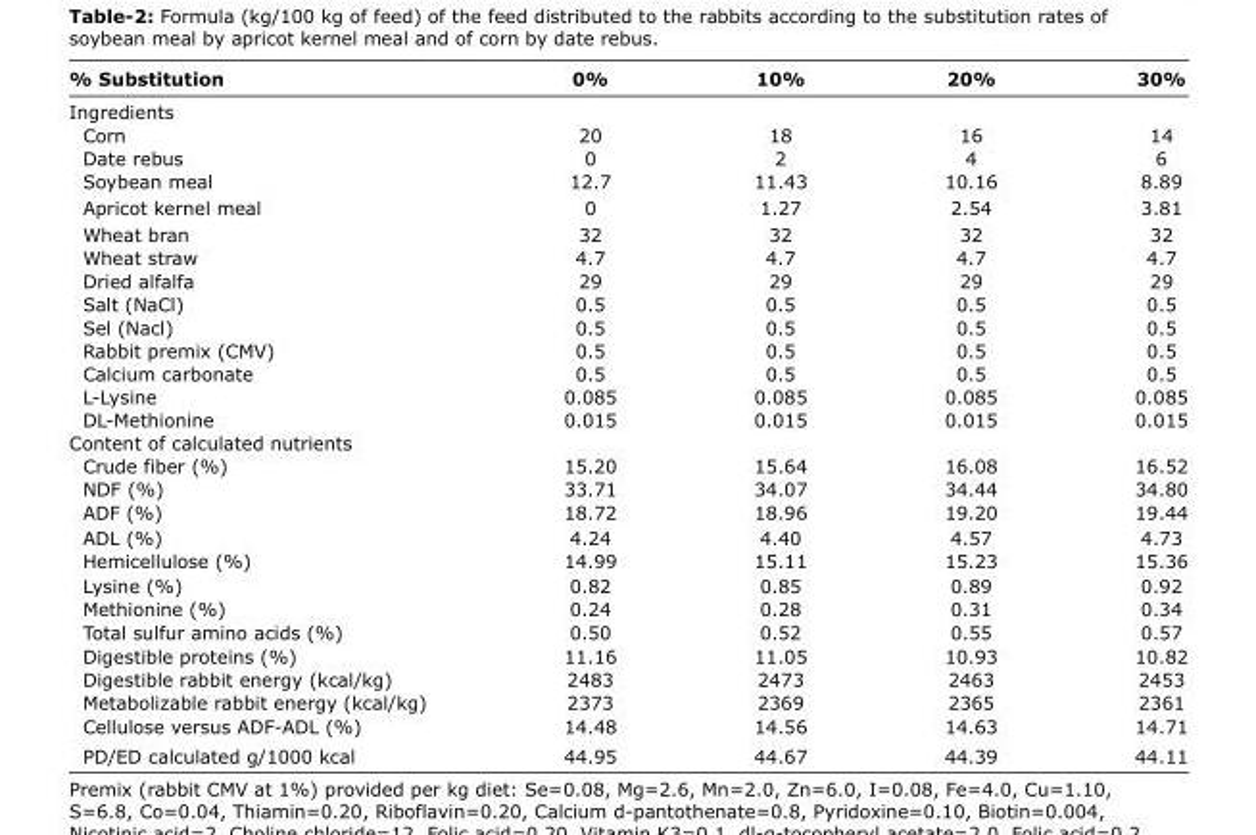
<table><thead><tr><td>% Substitution</td><td>0%</td><td>10%</td><td>20%</td><td>30%</td></tr></thead><tbody><tr><td colspan="5">Ingredients</td></tr><tr><td>Corn</td><td>20</td><td>18</td><td>16</td><td>14</td></tr><tr><td>Date rebus</td><td>0</td><td>2</td><td>4</td><td>6</td></tr><tr><td>Soybean meal</td><td>12.7</td><td>11.43</td><td>10.16</td><td>8.89</td></tr><tr><td>Apricot kernel meal</td><td>0</td><td>1.27</td><td>2.54</td><td>3.81</td></tr><tr><td>Wheat bran</td><td>32</td><td>32</td><td>32</td><td>32</td></tr><tr><td>Wheat straw</td><td>4.7</td><td>4.7</td><td>4.7</td><td>4.7</td></tr><tr><td>Dried alfalfa</td><td>29</td><td>29</td><td>29</td><td>29</td></tr><tr><td>Salt (NaCl)</td><td>0.5</td><td>0.5</td><td>0.5</td><td>0.5</td></tr><tr><td>Sel (Nacl)</td><td>0.5</td><td>0.5</td><td>0.5</td><td>0.5</td></tr><tr><td>Rabbit premix (CMV)</td><td>0.5</td><td>0.5</td><td>0.5</td><td>0.5</td></tr><tr><td>Calcium carbonate</td><td>0.5</td><td>0.5</td><td>0.5</td><td>0.5</td></tr><tr><td>L-Lysine</td><td>0.085</td><td>0.085</td><td>0.085</td><td>0.085</td></tr><tr><td>DL-Methionine</td><td>0.015</td><td>0.015</td><td>0.015</td><td>0.015</td></tr><tr><td colspan="5">Content of calculated nutrients</td></tr><tr><td>Crude fiber (%)</td><td>15.20</td><td>15.64</td><td>16.08</td><td>16.52</td></tr><tr><td>NDF (%)</td><td>33.71</td><td>34.07</td><td>34.44</td><td>34.80</td></tr><tr><td>ADF (%)</td><td>18.72</td><td>18.96</td><td>19.20</td><td>19.44</td></tr><tr><td>ADL (%)</td><td>4.24</td><td>4.40</td><td>4.57</td><td>4.73</td></tr><tr><td>Hemicellulose (%)</td><td>14.99</td><td>15.11</td><td>15.23</td><td>15.36</td></tr><tr><td>Lysine (%)</td><td>0.82</td><td>0.85</td><td>0.89</td><td>0.92</td></tr><tr><td>Methionine (%)</td><td>0.24</td><td>0.28</td><td>0.31</td><td>0.34</td></tr><tr><td>Total sulfur amino acids (%)</td><td>0.50</td><td>0.52</td><td>0.55</td><td>0.57</td></tr><tr><td>Digestible proteins (%)</td><td>11.16</td><td>11.05</td><td>10.93</td><td>10.82</td></tr><tr><td>Digestible rabbit energy (kcal/kg)</td><td>2483</td><td>2473</td><td>2463</td><td>2453</td></tr><tr><td>Metabolizable rabbit energy (kcal/kg)</td><td>2373</td><td>2369</td><td>2365</td><td>2361</td></tr><tr><td>Cellulose versus ADF-ADL (%)</td><td>14.48</td><td>14.56</td><td>14.63</td><td>14.71</td></tr><tr><td>PD/ED calculated g/1000 kcal</td><td>44.95</td><td>44.67</td><td>44.39</td><td>44.11</td></tr></tbody></table>